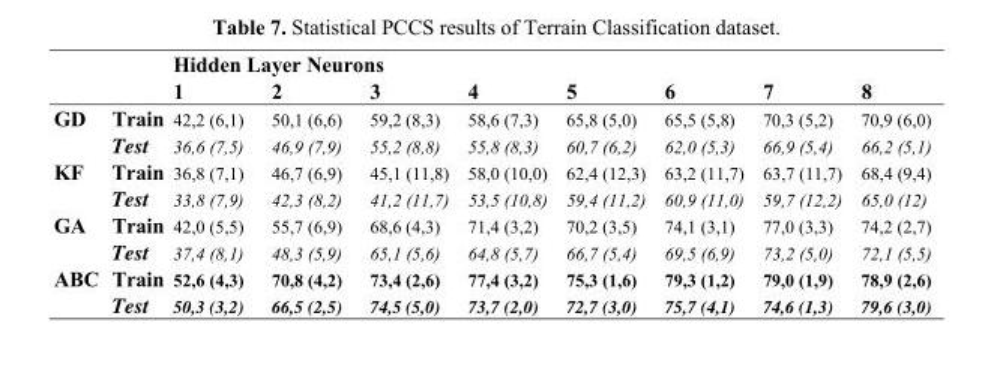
<table><thead><tr><td rowspan="2"></td><td rowspan="2"></td><td colspan="8">Hidden Layer Neurons</td></tr><tr><td>1</td><td>2</td><td>3</td><td>4</td><td>5</td><td>6</td><td>7</td><td>8</td></tr></thead><tbody><tr><td rowspan="2">GD</td><td>Train</td><td>42,2 (6,1)</td><td>50,1 (6,6)</td><td>59,2 (8,3)</td><td>58,6 (7,3)</td><td>65,8 (5,0)</td><td>65,5 (5,8)</td><td>70,3 (5,2)</td><td>70,9 (6,0)</td></tr><tr><td>Test</td><td>36,6 (7,5)</td><td>46,9 (7,9)</td><td>55,2 (8,8)</td><td>55,8 (8,3)</td><td>60,7 (6,2)</td><td>62,0 (5,3)</td><td>66,9 (5,4)</td><td>66,2 (5,1)</td></tr><tr><td rowspan="2">KF</td><td>Train</td><td>36,8 (7,1)</td><td>46,7 (6,9)</td><td>45,1 (11,8)</td><td>58,0 (10,0)</td><td>62,4 (12,3)</td><td>63,2 (11,7)</td><td>63,7 (11,7)</td><td>68,4 (9,4)</td></tr><tr><td>Test</td><td>33,8 (7,9)</td><td>42,3 (8,2)</td><td>41,2 (11,7)</td><td>53,5 (10,8)</td><td>59,4 (11,2)</td><td>60,9 (11,0)</td><td>59,7 (12,2)</td><td>65,0 (12)</td></tr><tr><td rowspan="2">GA</td><td>Train</td><td>42,0 (5,5)</td><td>55,7 (6,9)</td><td>68,6 (4,3)</td><td>71,4 (3,2)</td><td>70,2 (3,5)</td><td>74,1 (3,1)</td><td>77,0 (3,3)</td><td>74,2 (2,7)</td></tr><tr><td>Test</td><td>37,4 (8,1)</td><td>48,3 (5,9)</td><td>65,1 (5,6)</td><td>64,8 (5,7)</td><td>66,7 (5,4)</td><td>69,5 (6,9)</td><td>73,2 (5,0)</td><td>72,1 (5,5)</td></tr><tr><td rowspan="2">ABC</td><td>Train</td><td>52,6 (4,3)</td><td>70,8 (4,2)</td><td>73,4 (2,6)</td><td>77,4 (3,2)</td><td>75,3 (1,6)</td><td>79,3 (1,2)</td><td>79,0 (1,9)</td><td>78,9 (2,6)</td></tr><tr><td>Test</td><td>50,3 (3,2)</td><td>66,5 (2,5)</td><td>74,5 (5,0)</td><td>73,7 (2,0)</td><td>72,7 (3,0)</td><td>75,7 (4,1)</td><td>74,6 (1,3)</td><td>79,6 (3,0)</td></tr></tbody></table>